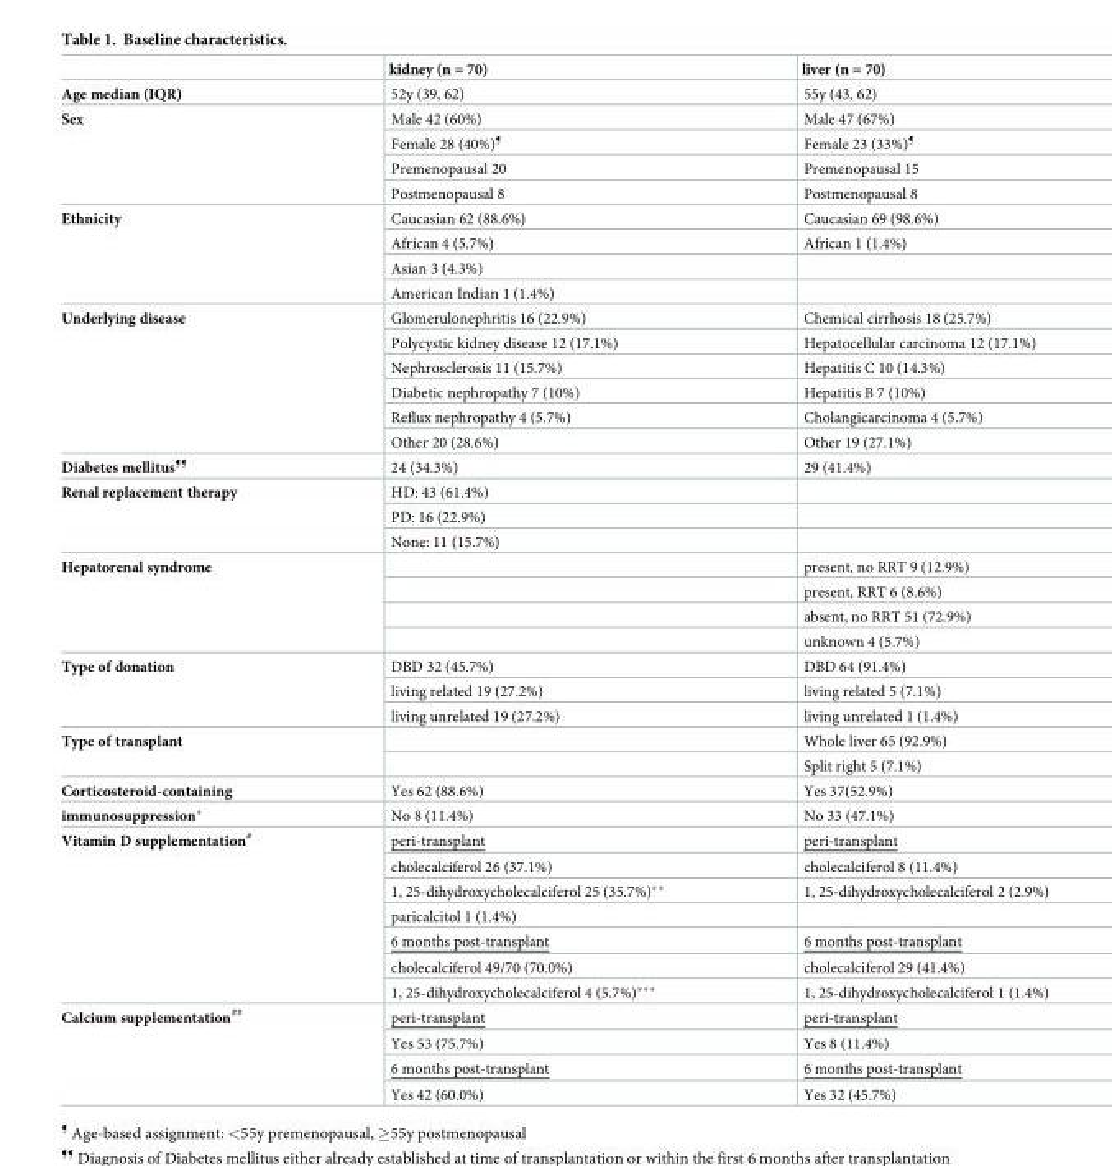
<table><thead><tr><td></td><td>kidney (n = 70)</td><td>liver (n = 70)</td></tr></thead><tbody><tr><td>Age median (IQR)</td><td>52y (39, 62)</td><td>55y (43, 62)</td></tr><tr><td rowspan="4">Sex</td><td>Male 42 (60%)</td><td>Male 47 (67%)</td></tr><tr><td>Female 28 (40%)<sup>¶</sup></td><td>Female 23 (33%)<sup>¶</sup></td></tr><tr><td>Premenopausal 20</td><td>Premenopausal 15</td></tr><tr><td>Postmenopausal 8</td><td>Postmenopausal 8</td></tr><tr><td rowspan="4">Ethnicity</td><td>Caucasian 62 (88.6%)</td><td>Caucasian 69 (98.6%)</td></tr><tr><td>African 4 (5.7%)</td><td>African 1 (1.4%)</td></tr><tr><td>Asian 3 (4.3%)</td><td></td></tr><tr><td>American Indian 1 (1.4%)</td><td></td></tr><tr><td rowspan="6">Underlying disease</td><td>Glomerulonephritis 16 (22.9%)</td><td>Chemical cirrhosis 18 (25.7%)</td></tr><tr><td>Polycystic kidney disease 12 (17.1%)</td><td>Hepatocellular carcinoma 12 (17.1%)</td></tr><tr><td>Nephrosclerosis 11 (15.7%)</td><td>Hepatitis C 10 (14.3%)</td></tr><tr><td>Diabetic nephropathy 7 (10%)</td><td>Hepatitis B 7 (10%)</td></tr><tr><td>Reflux nephropathy 4 (5.7%)</td><td>Cholangicarcinoma 4 (5.7%)</td></tr><tr><td>Other 20 (28.6%)</td><td>Other 19 (27.1%)</td></tr><tr><td>Diabetes mellitus<sup>¶¶</sup></td><td>24 (34.3%)</td><td>29 (41.4%)</td></tr><tr><td rowspan="3">Renal replacement therapy</td><td>HD: 43 (61.4%)</td><td></td></tr><tr><td>PD: 16 (22.9%)</td><td></td></tr><tr><td>None: 11 (15.7%)</td><td></td></tr><tr><td rowspan="4">Hepatorenal syndrome</td><td></td><td>present, no RRT 9 (12.9%)</td></tr><tr><td></td><td>present, RRT 6 (8.6%)</td></tr><tr><td></td><td>absent, no RRT 51 (72.9%)</td></tr><tr><td></td><td>unknown 4 (5.7%)</td></tr><tr><td rowspan="3">Type of donation</td><td>DBD 32 (45.7%)</td><td>DBD 64 (91.4%)</td></tr><tr><td>living related 19 (27.2%)</td><td>living related 5 (7.1%)</td></tr><tr><td>living unrelated 19 (27.2%)</td><td>living unrelated 1 (1.4%)</td></tr><tr><td rowspan="2">Type of transplant</td><td></td><td>Whole liver 65 (92.9%)</td></tr><tr><td></td><td>Split right 5 (7.1%)</td></tr><tr><td>Corticosteroid-containing</td><td>Yes 62 (88.6%)</td><td>Yes 37(52.9%)</td></tr><tr><td>immunosuppression*</td><td>No 8 (11.4%)</td><td>No 33 (47.1%)</td></tr><tr><td rowspan="7">Vitamin D supplementation<sup>#</sup></td><td>peri-transplant</td><td>peri-transplant</td></tr><tr><td>cholecalciferol 26 (37.1%)</td><td>cholecalciferol 8 (11.4%)</td></tr><tr><td>1, 25-dihydroxycholecalciferol 25 (35.7%)**</td><td>1, 25-dihydroxycholecalciferol 2 (2.9%)</td></tr><tr><td>paricalcitol 1 (1.4%)</td><td></td></tr><tr><td>6 months post-transplant</td><td>6 months post-transplant</td></tr><tr><td>cholecalciferol 49/70 (70.0%)</td><td>cholecalciferol 29 (41.4%)</td></tr><tr><td>1, 25-dihydroxycholecalciferol 4 (5.7%)***</td><td>1, 25-dihydroxycholecalciferol 1 (1.4%)</td></tr><tr><td rowspan="4">Calcium supplementation<sup>##</sup></td><td>peri-transplant</td><td>peri-transplant</td></tr><tr><td>Yes 53 (75.7%)</td><td>Yes 8 (11.4%)</td></tr><tr><td>6 months post-transplant</td><td>6 months post-transplant</td></tr><tr><td>Yes 42 (60.0%)</td><td>Yes 32 (45.7%)</td></tr></tbody></table>